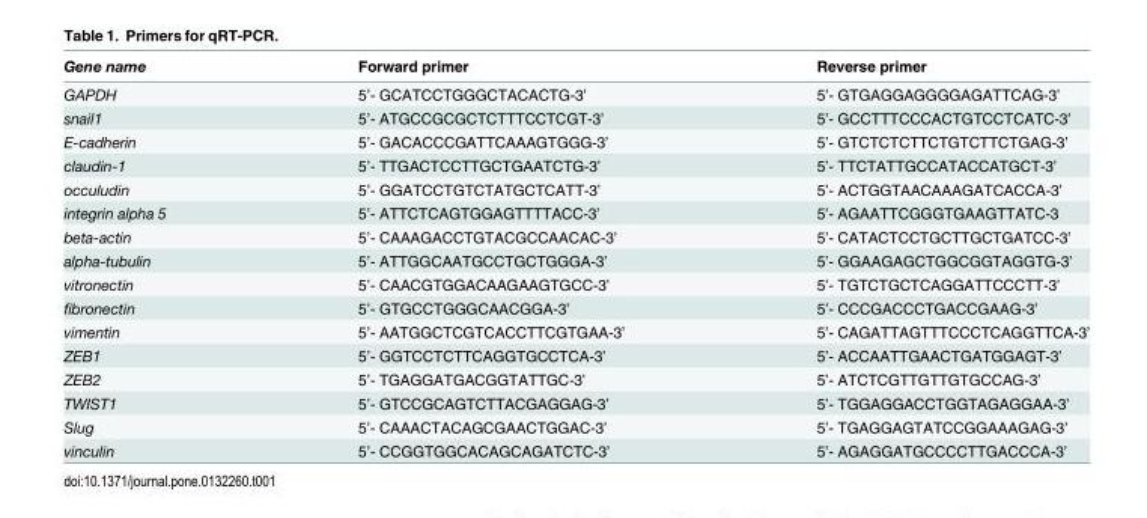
<table><thead><tr><td>Gene name</td><td>Forward primer</td><td>Reverse primer</td></tr></thead><tbody><tr><td>GAPDH</td><td>5’- GCATCCTGGGCTACACTG-3’</td><td>5’- GTGAGGAGGGGAGATTCAG-3’</td></tr><tr><td>snail1</td><td>5’- ATGCCGCGCTCTTTCCTCGT-3’</td><td>5’- GCCTTTCCCACTGTCCTCATC-3’</td></tr><tr><td>E-cadherin</td><td>5’- GACACCCGATTCAAAGTGGG-3’</td><td>5’- GTCTCTCTTCTGTCTTCTGAG-3’</td></tr><tr><td>claudin-1</td><td>5’- TTGACTCCTTGCTGAATCTG-3’</td><td>5’- TTCTATTGCCATACCATGCT-3’</td></tr><tr><td>occuludin</td><td>5’- GGATCCTGTCTATGCTCATT-3’</td><td>5’- ACTGGTAACAAAGATCACCA-3’</td></tr><tr><td>integrin alpha 5</td><td>5’- ATTCTCAGTGGAGTTTTACC-3’</td><td>5’- AGAATTCGGGTGAAGTTATC-3</td></tr><tr><td>beta-actin</td><td>5’- CAAAGACCTGTACGCCAACAC-3’</td><td>5’- CATACTCCTGCTTGCTGATCC-3’</td></tr><tr><td>alpha-tubulin</td><td>5’- ATTGGCAATGCCTGCTGGGA-3’</td><td>5’- GGAAGAGCTGGCGGTAGGTG-3’</td></tr><tr><td>vitronectin</td><td>5’- CAACGTGGACAAGAAGTGCC-3’</td><td>5’- TGTCTGCTCAGGATTCCCTT-3’</td></tr><tr><td>fibronectin</td><td>5’- GTGCCTGGGCAACGGA-3’</td><td>5’- CCCGACCCTGACCGAAG-3’</td></tr><tr><td>vimentin</td><td>5’- AATGGCTCGTCACCTTCGTGAA-3’</td><td>5’- CAGATTAGTTTCCCTCAGGTTCA-3’</td></tr><tr><td>ZEB1</td><td>5’- GGTCCTCTTCAGGTGCCTCA-3’</td><td>5’- ACCAATTGAACTGATGGAGT-3’</td></tr><tr><td>ZEB2</td><td>5’- TGAGGATGACGGTATTGC-3’</td><td>5’- ATCTCGTTGTTGTGCCAG-3’</td></tr><tr><td>TWIST1</td><td>5’- GTCCGCAGTCTTACGAGGAG-3’</td><td>5’- TGGAGGACCTGGTAGAGGAA-3’</td></tr><tr><td>Slug</td><td>5’- CAAACTACAGCGAACTGGAC-3’</td><td>5’- TGAGGAGTATCCGGAAAGAG-3’</td></tr><tr><td>vinculin</td><td>5’- CCGGTGGCACAGCAGATCTC-3’</td><td>5’- AGAGGATGCCCCTTGACCCA-3’</td></tr></tbody></table>